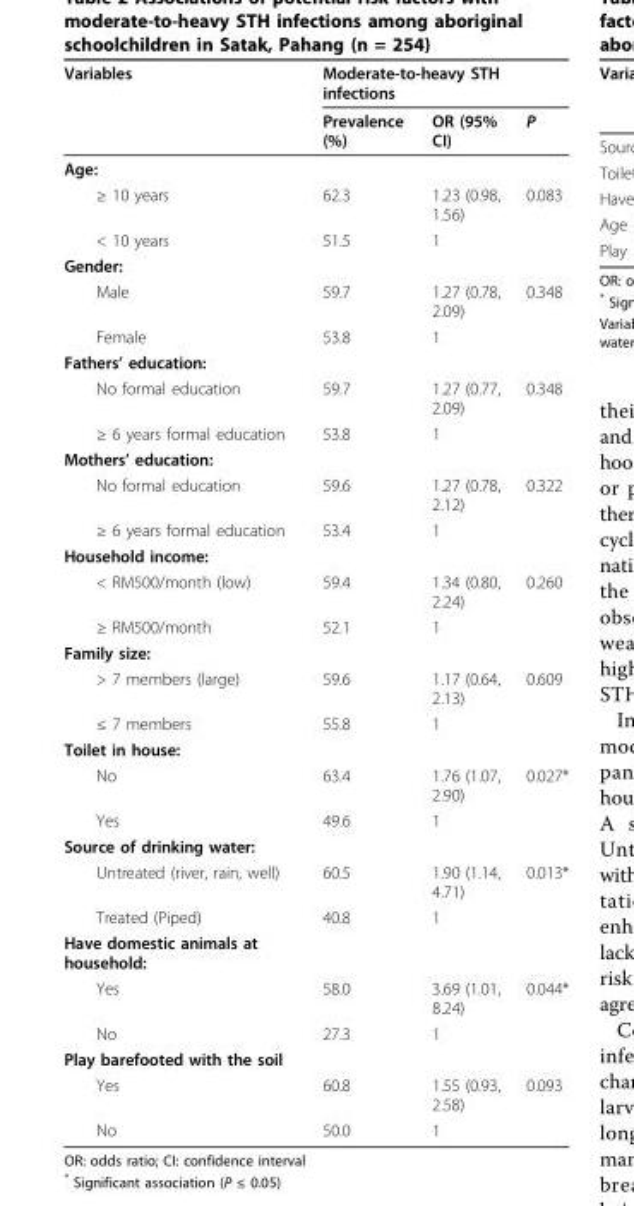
<table><thead><tr><td rowspan="2">Variables</td><td colspan="3">Moderate-to-heavy STH infections</td></tr><tr><td>Prevalence (%)</td><td>OR (95% CI)</td><td>P</td></tr></thead><tbody><tr><td colspan="4">Age:</td></tr><tr><td>≥ 10 years</td><td>62.3</td><td>1.23 (0.98, 1.56)</td><td>0.083</td></tr><tr><td>&lt; 10 years</td><td>51.5</td><td>1</td><td></td></tr><tr><td colspan="4">Gender:</td></tr><tr><td>Male</td><td>59.7</td><td>1.27 (0.78, 2.09)</td><td>0.348</td></tr><tr><td>Female</td><td>53.8</td><td>1</td><td></td></tr><tr><td colspan="4">Fathers’ education:</td></tr><tr><td>No formal education</td><td>59.7</td><td>1.27 (0.77, 2.09)</td><td>0.348</td></tr><tr><td>≥ 6 years formal education</td><td>53.8</td><td>1</td><td></td></tr><tr><td colspan="4">Mothers’ education:</td></tr><tr><td>No formal education</td><td>59.6</td><td>1.27 (0.78, 2.12)</td><td>0.322</td></tr><tr><td>≥ 6 years formal education</td><td>53.4</td><td>1</td><td></td></tr><tr><td colspan="4">Household income:</td></tr><tr><td>&lt; RM500/month (low)</td><td>59.4</td><td>1.34 (0.80, 2.24)</td><td>0.260</td></tr><tr><td>≥ RM500/month</td><td>52.1</td><td>1</td><td></td></tr><tr><td colspan="4">Family size:</td></tr><tr><td>&gt; 7 members (large)</td><td>59.6</td><td>1.17 (0.64, 2.13)</td><td>0.609</td></tr><tr><td>≤ 7 members</td><td>55.8</td><td>1</td><td></td></tr><tr><td colspan="4">Toilet in house:</td></tr><tr><td>No</td><td>63.4</td><td>1.76 (1.07, 2.90)</td><td>0.027*</td></tr><tr><td>Yes</td><td>49.6</td><td>1</td><td></td></tr><tr><td colspan="4">Source of drinking water:</td></tr><tr><td>Untreated (river, rain, well)</td><td>60.5</td><td>1.90 (1.14, 4.71)</td><td>0.013*</td></tr><tr><td>Treated (Piped)</td><td>40.8</td><td>1</td><td></td></tr><tr><td colspan="4">Have domestic animals at household:</td></tr><tr><td>Yes</td><td>58.0</td><td>3.69 (1.01, 8.24)</td><td>0.044*</td></tr><tr><td>No</td><td>27.3</td><td>1</td><td></td></tr><tr><td colspan="4">Play barefooted with the soil</td></tr><tr><td>Yes</td><td>60.8</td><td>1.55 (0.93, 2.58)</td><td>0.093</td></tr><tr><td>No</td><td>50.0</td><td>1</td><td></td></tr></tbody></table>